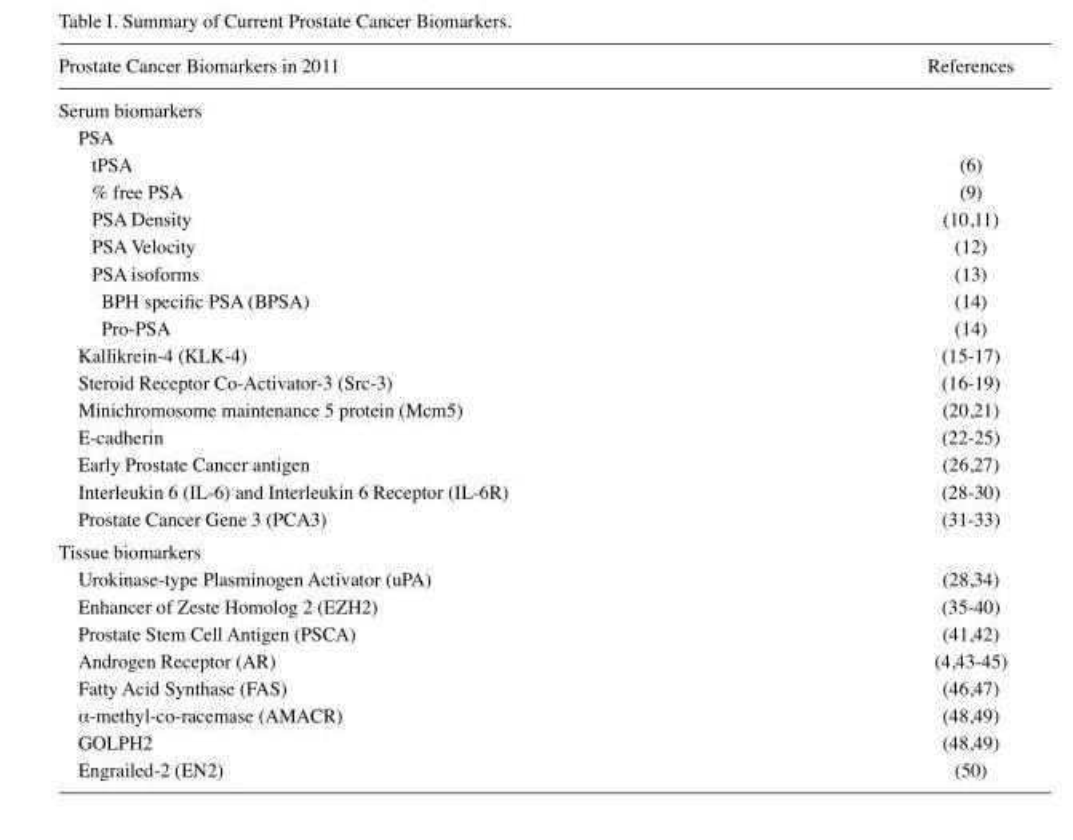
<table><thead><tr><td>Prostate Cancer Biomarkers in 2011</td><td>References</td></tr></thead><tbody><tr><td colspan="2">Serum biomarkers</td></tr><tr><td colspan="2">PSA</td></tr><tr><td>tPSA</td><td>(6)</td></tr><tr><td>% free PSA</td><td>(9)</td></tr><tr><td>PSA Density</td><td>(10,11)</td></tr><tr><td>PSA Velocity</td><td>(12)</td></tr><tr><td>PSA isoforms</td><td>(13)</td></tr><tr><td>BPH specific PSA (BPSA)</td><td>(14)</td></tr><tr><td>Pro-PSA</td><td>(14)</td></tr><tr><td>Kallikrein-4 (KLK-4)</td><td>(15-17)</td></tr><tr><td>Steroid Receptor Co-Activator-3 (Src-3)</td><td>(16-19)</td></tr><tr><td>Minichromosome maintenance 5 protein (Mcm5)</td><td>(20,21)</td></tr><tr><td>E-cadherin</td><td>(22-25)</td></tr><tr><td>Early Prostate Cancer antigen</td><td>(26,27)</td></tr><tr><td>Interleukin 6 (IL-6) and Interleukin 6 Receptor (IL-6R)</td><td>(28-30)</td></tr><tr><td>Prostate Cancer Gene 3 (PCA3)</td><td>(31-33)</td></tr><tr><td colspan="2">Tissue biomarkers</td></tr><tr><td>Urokinase-type Plasminogen Activator (uPA)</td><td>(28,34)</td></tr><tr><td>Enhancer of Zeste Homolog 2 (EZH2)</td><td>(35-40)</td></tr><tr><td>Prostate Stem Cell Antigen (PSCA)</td><td>(41,42)</td></tr><tr><td>Androgen Receptor (AR)</td><td>(4,43-45)</td></tr><tr><td>Fatty Acid Synthase (FAS)</td><td>(46,47)</td></tr><tr><td>α-methyl-co-racemase (AMACR)</td><td>(48,49)</td></tr><tr><td>GOLPH2</td><td>(48,49)</td></tr><tr><td>Engrailed-2 (EN2)</td><td>(50)</td></tr></tbody></table>